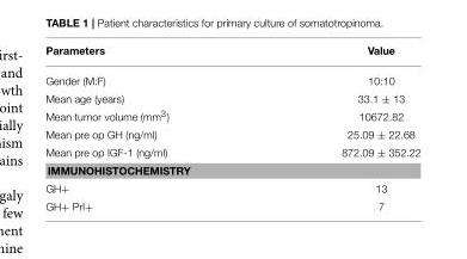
<table><thead><tr><td>Parameters</td><td>Value</td></tr></thead><tbody><tr><td>Gender (M:F)</td><td>10:10</td></tr><tr><td>Mean age (years)</td><td>33.1 ± 13</td></tr><tr><td>Mean tumor volume (mm<sup>3</sup>)</td><td>10672.82</td></tr><tr><td>Mean pre op GH (ng/ml)</td><td>25.09 ± 22.68</td></tr><tr><td>Mean pre op IGF-1 (ng/ml)</td><td>872.09 ± 352.22</td></tr><tr><td colspan="2">IMMUNOHISTOCHEMISTRY</td></tr><tr><td>GH+</td><td>13</td></tr><tr><td>GH+ Prl+</td><td>7</td></tr></tbody></table>